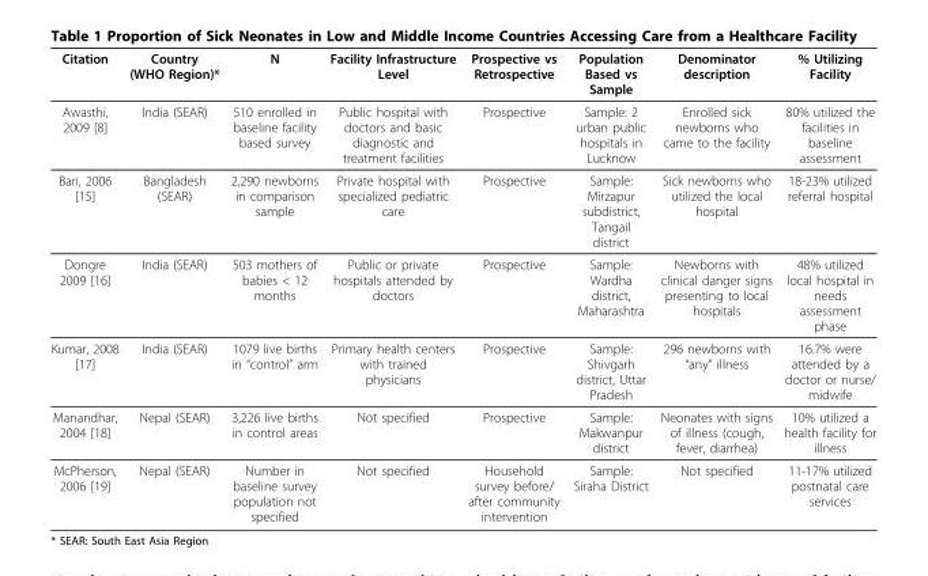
<table><thead><tr><td>Citation</td><td>Country (WHO Region)*</td><td>N</td><td>Facility Infrastructure Level</td><td>Prospective vs Retrospective</td><td>Population Based vs Sample</td><td>Denominator description</td><td>% Utilizing Facility</td></tr></thead><tbody><tr><td>Awasthi, 2009 [8]</td><td>India (SEAR)</td><td>510 enrolled in baseline facility based survey</td><td>Public hospital with doctors and basic diagnostic and treatment facilities</td><td>Prospective</td><td>Sample: 2 urban public hospitals in Lucknow</td><td>Enrolled sick newborns who came to the facility</td><td>80% utilized the facilities in baseline assessment</td></tr><tr><td>Bari, 2006 [15]</td><td>Bangladesh (SEAR)</td><td>2,290 newborns in comparison sample</td><td>Private hospital with specialized pediatric care</td><td>Prospective</td><td>Sample: Mirzapur subdistrict, Tangail district</td><td>Sick newborns who utilized the local hospital</td><td>18-23% utilized referral hospital</td></tr><tr><td>Dongre 2009 [16]</td><td>India (SEAR)</td><td>503 mothers of babies &lt; 12 months</td><td>Public or private hospitals attended by doctors</td><td>Prospective</td><td>Sample: Wardha district, Maharashtra</td><td>Newborns with clinical danger signs presenting to local hospitals</td><td>48% utilized local hospital in needs assessment phase</td></tr><tr><td>Kumar, 2008 [17]</td><td>India (SEAR)</td><td>1079 live births in “control” arm</td><td>Primary health centers with trained physicians</td><td>Prospective</td><td>Sample: Shivgarh district, Uttar Pradesh</td><td>296 newborns with “any” illness</td><td>16.7% were attended by a doctor or nurse/ midwife</td></tr><tr><td>Manandhar, 2004 [18]</td><td>Nepal (SEAR)</td><td>3,226 live births in control areas</td><td>Not specified</td><td>Prospective</td><td>Sample: Makwanpur district</td><td>Neonates with signs of illness (cough, fever, diarrhea)</td><td>10% utilized a health facility for illness</td></tr><tr><td>McPherson, 2006 [19]</td><td>Nepal (SEAR)</td><td>Number in baseline survey population not specified</td><td>Not specified</td><td>Household survey before/ after community intervention</td><td>Sample: Siraha District</td><td>Not specified</td><td>11-17% utilized postnatal care services</td></tr></tbody></table>